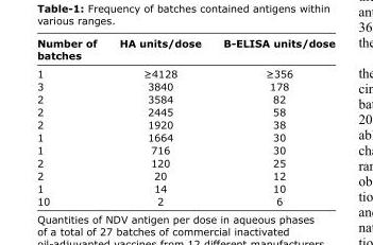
<table><thead><tr><td>Number of batches</td><td>HA units/dose</td><td>B‑ELISA units/dose</td></tr></thead><tbody><tr><td>1</td><td>≥4128</td><td>≥356</td></tr><tr><td>3</td><td>3840</td><td>178</td></tr><tr><td>2</td><td>3584</td><td>82</td></tr><tr><td>2</td><td>2445</td><td>58</td></tr><tr><td>2</td><td>1920</td><td>38</td></tr><tr><td>1</td><td>1664</td><td>30</td></tr><tr><td>1</td><td>716</td><td>30</td></tr><tr><td>2</td><td>120</td><td>25</td></tr><tr><td>2</td><td>20</td><td>12</td></tr><tr><td>1</td><td>14</td><td>10</td></tr><tr><td>10</td><td>2</td><td>6</td></tr></tbody></table>